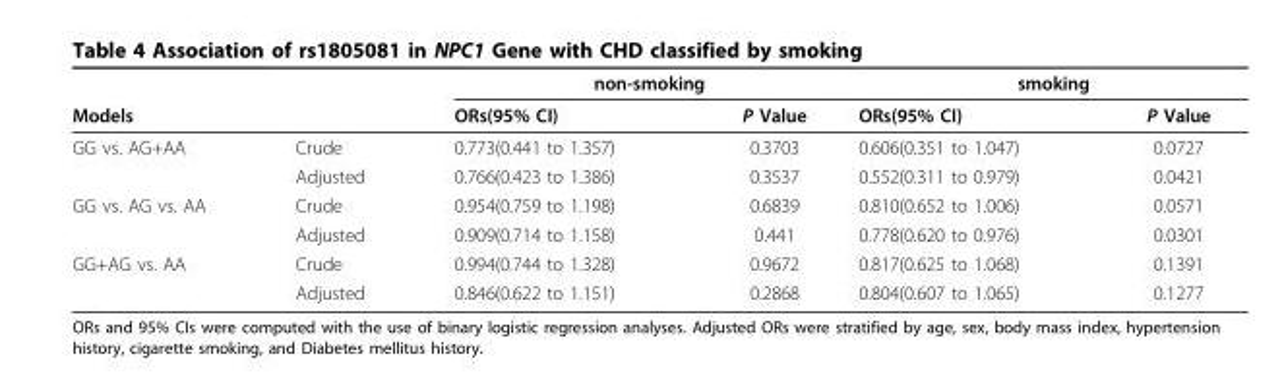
<table><thead><tr><td rowspan="2">Models</td><td rowspan="2"></td><td colspan="2">non-smoking</td><td colspan="2">smoking</td></tr><tr><td>ORs(95% CI)</td><td>P Value</td><td>ORs(95% CI)</td><td>P Value</td></tr></thead><tbody><tr><td rowspan="2">GG vs. AG+AA</td><td>Crude</td><td>0.773(0.441 to 1.357)</td><td>0.3703</td><td>0.606(0.351 to 1.047)</td><td>0.0727</td></tr><tr><td>Adjusted</td><td>0.766(0.423 to 1.386)</td><td>0.3537</td><td>0.552(0.311 to 0.979)</td><td>0.0421</td></tr><tr><td rowspan="2">GG vs. AG vs. AA</td><td>Crude</td><td>0.954(0.759 to 1.198)</td><td>0.6839</td><td>0.810(0.652 to 1.006)</td><td>0.0571</td></tr><tr><td>Adjusted</td><td>0.909(0.714 to 1.158)</td><td>0.441</td><td>0.778(0.620 to 0.976)</td><td>0.0301</td></tr><tr><td rowspan="2">GG+AG vs. AA</td><td>Crude</td><td>0.994(0.744 to 1.328)</td><td>0.9672</td><td>0.817(0.625 to 1.068)</td><td>0.1391</td></tr><tr><td>Adjusted</td><td>0.846(0.622 to 1.151)</td><td>0.2868</td><td>0.804(0.607 to 1.065)</td><td>0.1277</td></tr></tbody></table>